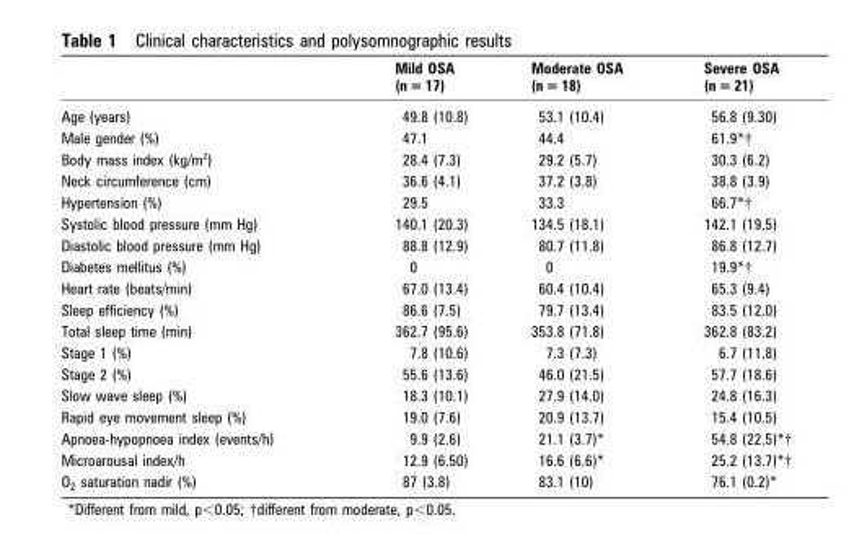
<table><thead><tr><td></td><td>Mild OSA (n = 17)</td><td>Moderate OSA (n = 18)</td><td>Severe OSA (n = 21)</td></tr></thead><tbody><tr><td>Age (years)</td><td>49.8 (10.8)</td><td>53.1 (10.4)</td><td>56.8 (9.30)</td></tr><tr><td>Male gender (%)</td><td>47.1</td><td>44.4</td><td>61.9*†</td></tr><tr><td>Body mass index (kg/m<sup>2</sup>)</td><td>28.4 (7.3)</td><td>29.2 (5.7)</td><td>30.3 (6.2)</td></tr><tr><td>Neck circumference (cm)</td><td>36.6 (4.1)</td><td>37.2 (3.8)</td><td>38.8 (3.9)</td></tr><tr><td>Hypertension (%)</td><td>29.5</td><td>33.3</td><td>66.7*†</td></tr><tr><td>Systolic blood pressure (mm Hg)</td><td>140.1 (20.3)</td><td>134.5 (18.1)</td><td>142.1 (19.5)</td></tr><tr><td>Diastolic blood pressure (mm Hg)</td><td>88.8 (12.9)</td><td>80.7 (11.8)</td><td>86.8 (12.7)</td></tr><tr><td>Diabetes mellitus (%)</td><td>0</td><td>0</td><td>19.9*†</td></tr><tr><td>Heart rate (beats/min)</td><td>67.0 (13.4)</td><td>60.4 (10.4)</td><td>65.3 (9.4)</td></tr><tr><td>Sleep efficiency (%)</td><td>86.6 (7.5)</td><td>79.7 (13.4)</td><td>83.5 (12.0)</td></tr><tr><td>Total sleep time (min)</td><td>362.7 (95.6)</td><td>353.8 (71.8)</td><td>362.8 (83.2)</td></tr><tr><td>Stage 1 (%)</td><td>7.8 (10.6)</td><td>7.3 (7.3)</td><td>6.7 (11.8)</td></tr><tr><td>Stage 2 (%)</td><td>55.6 (13.6)</td><td>46.0 (21.5)</td><td>57.7 (18.6)</td></tr><tr><td>Slow wave sleep (%)</td><td>18.3 (10.1)</td><td>27.9 (14.0)</td><td>24.8 (16.3)</td></tr><tr><td>Rapid eye movement sleep (%)</td><td>19.0 (7.6)</td><td>20.9 (13.7)</td><td>15.4 (10.5)</td></tr><tr><td>Apnoea-hypopnoea index (events/h)</td><td>9.9 (2.6)</td><td>21.1 (3.7)*</td><td>54.8 (22.5)*†</td></tr><tr><td>Microarousal index/h</td><td>12.9 (6.50)</td><td>16.6 (6.6)*</td><td>25.2 (13.7)*†</td></tr><tr><td>O<sub>2</sub> saturation nadir (%)</td><td>87 (3.8)</td><td>83.1 (10)</td><td>76.1 (0.2)*</td></tr></tbody></table>